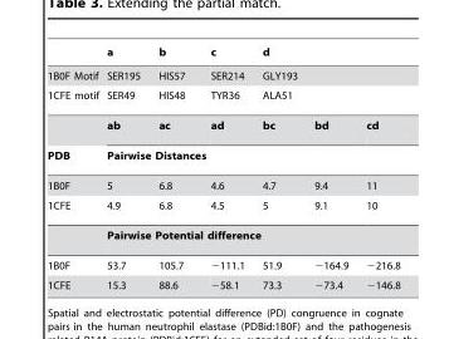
<table><thead><tr><td rowspan="4">1B0F Motif 1CFE motif</td><td rowspan="4">a SER195 SER49 ab</td><td rowspan="4">b HIS57 HIS48 ac</td><td rowspan="4">c SER214 TYR36 ad</td><td rowspan="3" colspan="3">d GLY193 ALA51</td></tr><tr></tr><tr></tr><tr><td>bc</td><td>bd</td><td>cd</td></tr></thead><tbody><tr><td>PDB</td><td colspan="6">Pairwise Distances</td></tr><tr><td>1B0F</td><td>5</td><td>6.8</td><td>4.6</td><td>4.7</td><td>9.4</td><td>11</td></tr><tr><td rowspan="2">1CFE</td><td>4.9</td><td>6.8</td><td>4.5</td><td>5</td><td>9.1</td><td>10</td></tr><tr><td colspan="6">Pairwise Potential difference</td></tr><tr><td>1B0F</td><td>53.7</td><td>105.7</td><td>−111.1</td><td>51.9</td><td>−164.9</td><td>−216.8</td></tr><tr><td>1CFE</td><td>15.3</td><td>88.6</td><td>−58.1</td><td>73.3</td><td>−73.4</td><td>−146.8</td></tr></tbody></table>